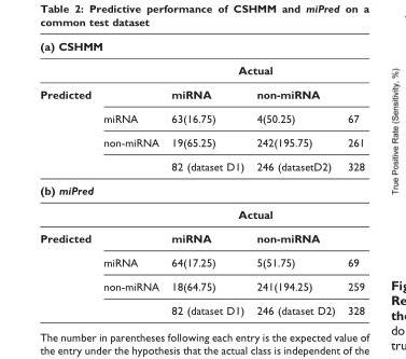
<table><thead><tr><td colspan="5">(a) CSHMM</td></tr><tr><td rowspan="2">Predicted</td><td rowspan="2"></td><td colspan="2">Actual</td><td rowspan="2"></td></tr><tr><td>miRNA</td><td>non-miRNA</td></tr></thead><tbody><tr><td></td><td>miRNA</td><td>63(16.75)</td><td>4(50.25)</td><td>67</td></tr><tr><td></td><td>non-miRNA</td><td>19(65.25)</td><td>242(195.75)</td><td>261</td></tr><tr><td></td><td></td><td>82 (dataset D1)</td><td>246 (datasetD2)</td><td>328</td></tr><tr><td colspan="5">(b) miPred</td></tr><tr><td></td><td></td><td colspan="2">Actual</td><td></td></tr><tr><td rowspan="4">Predicted</td><td></td><td>miRNA</td><td>non-miRNA</td><td></td></tr><tr><td>miRNA</td><td>64(17.25)</td><td>5(51.75)</td><td>69</td></tr><tr><td>non-miRNA</td><td>18(64.75)</td><td>241(194.25)</td><td>259</td></tr><tr><td></td><td>82 (dataset D1)</td><td>246 (dataset D2)</td><td>328</td></tr></tbody></table>